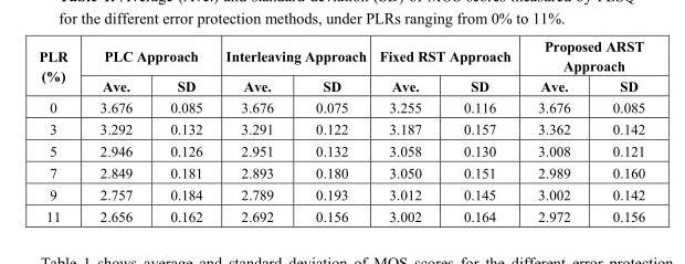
<table><thead><tr><td rowspan="2">PLR (%)</td><td colspan="2">PLC Approach</td><td colspan="2">Interleaving Approach</td><td colspan="2">Fixed RST Approach</td><td colspan="2">Proposed ARST Approach</td></tr><tr><td>Ave.</td><td>SD</td><td>Ave.</td><td>SD</td><td>Ave.</td><td>SD</td><td>Ave.</td><td>SD</td></tr></thead><tbody><tr><td>0</td><td>3.676</td><td>0.085</td><td>3.676</td><td>0.075</td><td>3.255</td><td>0.116</td><td>3.676</td><td>0.085</td></tr><tr><td>3</td><td>3.292</td><td>0.132</td><td>3.291</td><td>0.122</td><td>3.187</td><td>0.157</td><td>3.362</td><td>0.142</td></tr><tr><td>5</td><td>2.946</td><td>0.126</td><td>2.951</td><td>0.132</td><td>3.058</td><td>0.130</td><td>3.008</td><td>0.121</td></tr><tr><td>7</td><td>2.849</td><td>0.181</td><td>2.893</td><td>0.180</td><td>3.050</td><td>0.151</td><td>2.989</td><td>0.160</td></tr><tr><td>9</td><td>2.757</td><td>0.184</td><td>2.789</td><td>0.193</td><td>3.012</td><td>0.145</td><td>3.002</td><td>0.142</td></tr><tr><td>11</td><td>2.656</td><td>0.162</td><td>2.692</td><td>0.156</td><td>3.002</td><td>0.164</td><td>2.972</td><td>0.156</td></tr></tbody></table>